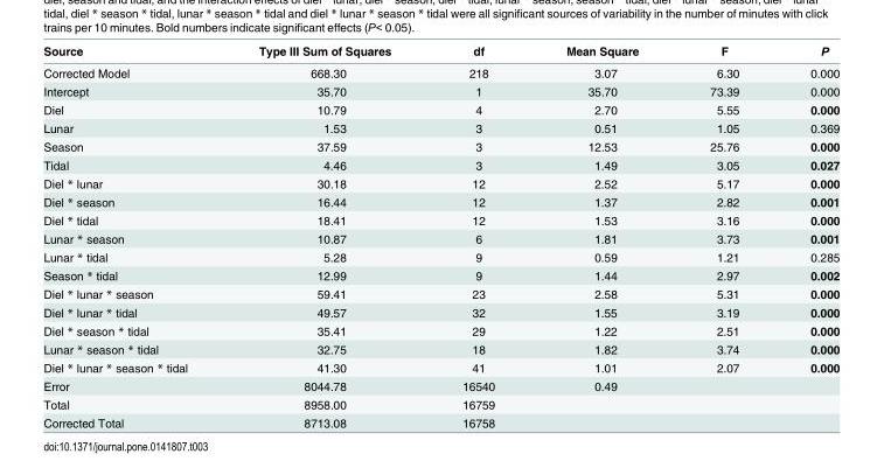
<table><thead><tr><td>Source</td><td>Type III Sum of Squares</td><td>df</td><td>Mean Square</td><td>F</td><td>P</td></tr></thead><tbody><tr><td>Corrected Model</td><td>668.30</td><td>218</td><td>3.07</td><td>6.30</td><td>0.000</td></tr><tr><td>Intercept</td><td>35.70</td><td>1</td><td>35.70</td><td>73.39</td><td>0.000</td></tr><tr><td>Diel</td><td>10.79</td><td>4</td><td>2.70</td><td>5.55</td><td>0.000</td></tr><tr><td>Lunar</td><td>1.53</td><td>3</td><td>0.51</td><td>1.05</td><td>0.369</td></tr><tr><td>Season</td><td>37.59</td><td>3</td><td>12.53</td><td>25.76</td><td>0.000</td></tr><tr><td>Tidal</td><td>4.46</td><td>3</td><td>1.49</td><td>3.05</td><td>0.027</td></tr><tr><td>Diel * lunar</td><td>30.18</td><td>12</td><td>2.52</td><td>5.17</td><td>0.000</td></tr><tr><td>Diel * season</td><td>16.44</td><td>12</td><td>1.37</td><td>2.82</td><td>0.001</td></tr><tr><td>Diel * tidal</td><td>18.41</td><td>12</td><td>1.53</td><td>3.16</td><td>0.000</td></tr><tr><td>Lunar * season</td><td>10.87</td><td>6</td><td>1.81</td><td>3.73</td><td>0.001</td></tr><tr><td>Lunar * tidal</td><td>5.28</td><td>9</td><td>0.59</td><td>1.21</td><td>0.285</td></tr><tr><td>Season * tidal</td><td>12.99</td><td>9</td><td>1.44</td><td>2.97</td><td>0.002</td></tr><tr><td>Diel * lunar * season</td><td>59.41</td><td>23</td><td>2.58</td><td>5.31</td><td>0.000</td></tr><tr><td>Diel * lunar * tidal</td><td>49.57</td><td>32</td><td>1.55</td><td>3.19</td><td>0.000</td></tr><tr><td>Diel * season * tidal</td><td>35.41</td><td>29</td><td>1.22</td><td>2.51</td><td>0.000</td></tr><tr><td>Lunar * season * tidal</td><td>32.75</td><td>18</td><td>1.82</td><td>3.74</td><td>0.000</td></tr><tr><td>Diel * lunar * season * tidal</td><td>41.30</td><td>41</td><td>1.01</td><td>2.07</td><td>0.000</td></tr><tr><td>Error</td><td>8044.78</td><td>16540</td><td>0.49</td><td></td><td></td></tr><tr><td>Total</td><td>8958.00</td><td>16759</td><td></td><td></td><td></td></tr><tr><td>Corrected Total</td><td>8713.08</td><td>16758</td><td></td><td></td><td></td></tr></tbody></table>